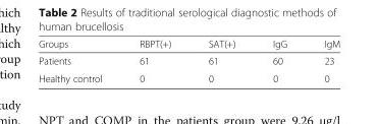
<table><thead><tr><td>Groups</td><td>RBPT(+)</td><td>SAT(+)</td><td>IgG</td><td>IgM</td></tr></thead><tbody><tr><td>Patients</td><td>61</td><td>61</td><td>60</td><td>23</td></tr><tr><td>Healthy control</td><td>0</td><td>0</td><td>0</td><td>0</td></tr></tbody></table>